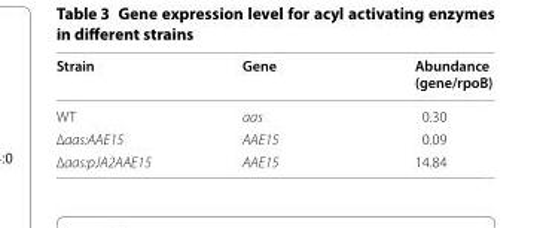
<table><thead><tr><td>Strain</td><td>Gene</td><td>Abundance (gene/rpoB)</td></tr></thead><tbody><tr><td>WT</td><td>aas</td><td>0.30</td></tr><tr><td>∆aas:AAE15</td><td>AAE15</td><td>0.09</td></tr><tr><td>∆aas:pJA2AAE15</td><td>AAE15</td><td>14.84</td></tr></tbody></table>